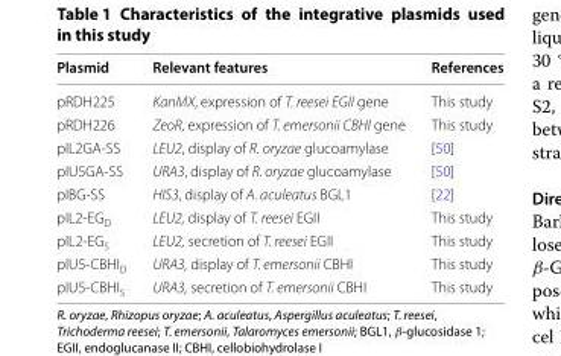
<table><thead><tr><td>Plasmid</td><td>Relevant features</td><td>References</td></tr></thead><tbody><tr><td>pRDH225</td><td>KanMX, expression of T. reesei EGII gene</td><td>This study</td></tr><tr><td>pRDH226</td><td>ZeoR, expression of T. emersonii CBHI gene</td><td>This study</td></tr><tr><td>pIL2GA‑SS</td><td>LEU2, display of R. oryzae glucoamylase</td><td>[50]</td></tr><tr><td>pIU5GA‑SS</td><td>URA3, display of R. oryzae glucoamylase</td><td>[50]</td></tr><tr><td>pIBG‑SS</td><td>HIS3, display of A. aculeatus BGL1</td><td>[22]</td></tr><tr><td>pIL2‑EG<sub>D</sub></td><td>LEU2, display of T. reesei EGII</td><td>This study</td></tr><tr><td>pIL2‑EG<sub>S</sub></td><td>LEU2, secretion of T. reesei EGII</td><td>This study</td></tr><tr><td>pIU5‑CBHI<sub>D</sub></td><td>URA3, display of T. emersonii CBHI</td><td>This study</td></tr><tr><td>pIU5‑CBHI<sub>S</sub></td><td>URA3, secretion of T. emersonii CBHI</td><td>This study</td></tr></tbody></table>